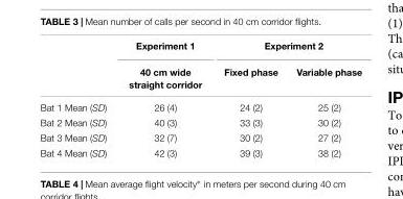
<table><thead><tr><td rowspan="2"></td><td rowspan="2">Experiment 1 40 cm wide straight corridor</td><td colspan="2">Experiment 2</td></tr><tr><td>Fixed phase</td><td>Variable phase</td></tr></thead><tbody><tr><td>Bat 1 Mean (SD)</td><td>26 (4)</td><td>24 (2)</td><td>25 (2)</td></tr><tr><td>Bat 2 Mean (SD)</td><td>40 (3)</td><td>33 (3)</td><td>30 (2)</td></tr><tr><td>Bat 3 Mean (SD)</td><td>32 (7)</td><td>30 (2)</td><td>27 (2)</td></tr><tr><td>Bat 4 Mean (SD)</td><td>42 (3)</td><td>39 (3)</td><td>38 (2)</td></tr></tbody></table>